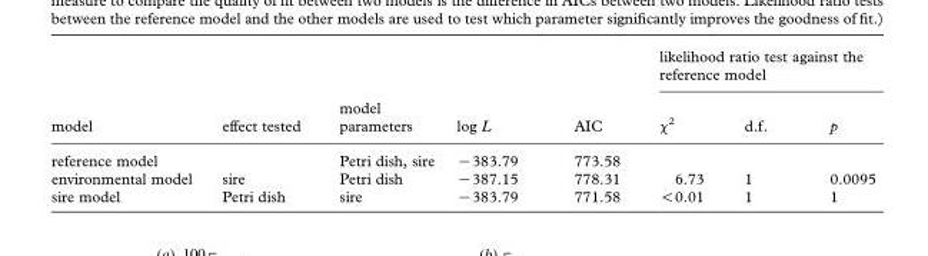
<table><thead><tr><td rowspan="2">model</td><td rowspan="2">effect tested</td><td rowspan="2">model parameters</td><td rowspan="2">log L</td><td rowspan="2">AIC</td><td colspan="3">likelihood ratio test against the reference model</td></tr><tr><td>Χ<sup>2</sup></td><td>d.f.</td><td>p</td></tr></thead><tbody><tr><td>reference model</td><td></td><td>Petri dish, sire</td><td>−383.79</td><td>773.58</td><td></td><td></td><td></td></tr><tr><td>environmental model</td><td>sire</td><td>Petri dish</td><td>−387.15</td><td>778.31</td><td>6.73</td><td>1</td><td>0.0095</td></tr><tr><td>sire model</td><td>Petri dish</td><td>sire</td><td>−383.79</td><td>771.58</td><td>&lt;0.01</td><td>1</td><td>1</td></tr></tbody></table>